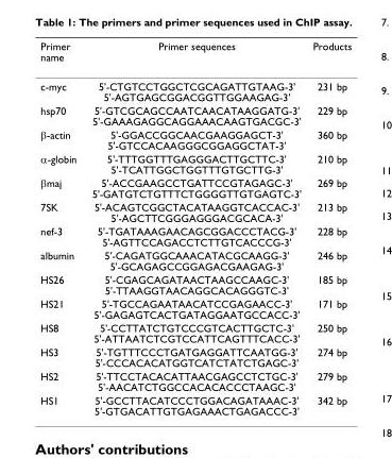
<table><thead><tr><td>Primer name</td><td>Primer sequences</td><td>Products</td></tr></thead><tbody><tr><td>c-myc</td><td>5&#x27;-CTGTCCTGGCTCGCAGATTGTAAG-3&#x27; 5&#x27;-AGTGAGCGGACGGTTGGAAGAG-3&#x27;</td><td>231 bp</td></tr><tr><td>hsp70</td><td>5&#x27;-GTCGCAGCCAATCAACATAAGGATG-3&#x27; 5&#x27;-GAAAGAGGCAGGAAACAAGTGACGC-3&#x27;</td><td>229 bp</td></tr><tr><td>β-actin</td><td>5&#x27;-GGACCGGCAACGAAGGAGCT-3&#x27; 5&#x27;-GTCCACAAGGGCGGAGGCTAT-3&#x27;</td><td>360 bp</td></tr><tr><td>α-globin</td><td>5&#x27;-TTTGGTTTGAGGGACTTGCTTC-3&#x27; 5&#x27;-TCATTGGCTGGTTTGTGCTTG-3&#x27;</td><td>210 bp</td></tr><tr><td>βmaj</td><td>5&#x27;-ACCGAAGCCTGATTCCGTAGAGC-3&#x27; 5&#x27;-GATGTCTGTTTCTGGGGTTGTGAGTC-3&#x27;</td><td>269 bp</td></tr><tr><td>7SK</td><td>5&#x27;-ACAGTCGGCTACATAAGGTCACCAC-3&#x27; 5&#x27;-AGCTTCGGGAGGGACGCACA-3&#x27;</td><td>213 bp</td></tr><tr><td>nef-3</td><td>5&#x27;-TGATAAAGAACAGCGGACCCTACG-3&#x27; 5&#x27;-AGTTCCAGACCTCTTGTCACCCG-3&#x27;</td><td>228 bp</td></tr><tr><td>albumin</td><td>5&#x27;-CAGATGGCAAACATACGCAAGG-3&#x27; 5&#x27;-GCAGAGCCGGAGACGAAGAG-3&#x27;</td><td>246 bp</td></tr><tr><td>HS26</td><td>5&#x27;-CGAGCAGATAACTAAGCCAAGC-3&#x27; 5&#x27;-TTAAGGTAACAGGCACAGGGTC-3&#x27;</td><td>185 bp</td></tr><tr><td>HS21</td><td>5&#x27;-TGCCAGAATAACATCCGAGAACC-3&#x27; 5&#x27;-GAGAGTCACTGATAGGAATGCCACC-3&#x27;</td><td>171 bp</td></tr><tr><td>HS8</td><td>5&#x27;-CCTTATCTGTCCCGTCACTTGCTC-3&#x27; 5&#x27;-ATTAATCTCGTCCATTCAGTTTCACC-3&#x27;</td><td>250 bp</td></tr><tr><td>HS3</td><td>5&#x27;-TGTTTCCCTGATGAGGATTCAATGG-3&#x27; 5&#x27;-CCCACACATGGTCATCTATCTGAGC-3&#x27;</td><td>274 bp</td></tr><tr><td>HS2</td><td>5&#x27;-TTCCTACACATTAACGAGCCTCTGC-3&#x27; 5&#x27;-AACATCTGGCCACACACCCTAAGC-3&#x27;</td><td>279 bp</td></tr><tr><td>HS1</td><td>5&#x27;-GCCTTACATCCCTGGACAGATAAAC-3&#x27; 5&#x27;-GTGACATTGTGAGAAACTGAGACCC-3&#x27;</td><td>342 bp</td></tr></tbody></table>